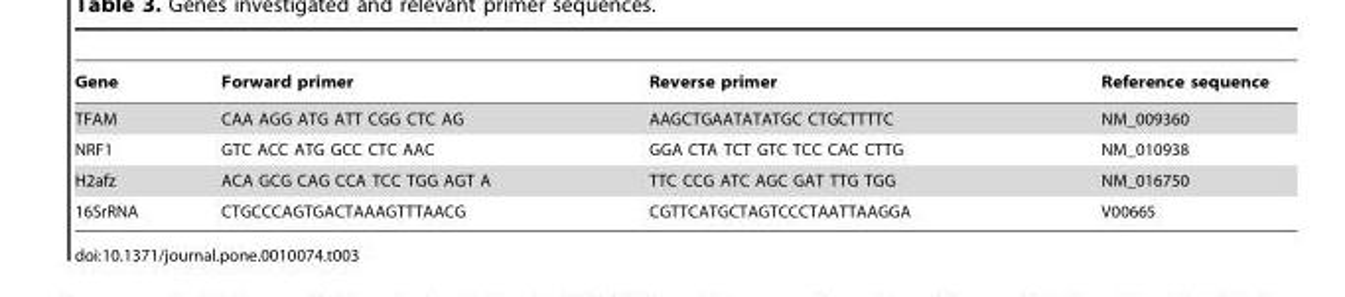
<table><thead><tr><td>Gene</td><td>Forward primer</td><td>Reverse primer</td><td>Reference sequence</td></tr></thead><tbody><tr><td>TFAM</td><td>CAA AGG ATG ATT CGG CTC AG</td><td>AAGCTGAATATATGC CTGCTTTTC</td><td>NM_009360</td></tr><tr><td>NRF1</td><td>GTC ACC ATG GCC CTC AAC</td><td>GGA CTA TCT GTC TCC CAC CTTG</td><td>NM_010938</td></tr><tr><td>H2afz</td><td>ACA GCG CAG CCA TCC TGG AGT A</td><td>TTC CCG ATC AGC GAT TTG TGG</td><td>NM_016750</td></tr><tr><td>16SrRNA</td><td>CTGCCCAGTGACTAAAGTTTAACG</td><td>CGTTCATGCTAGTCCCTAATTAAGGA</td><td>V00665</td></tr></tbody></table>